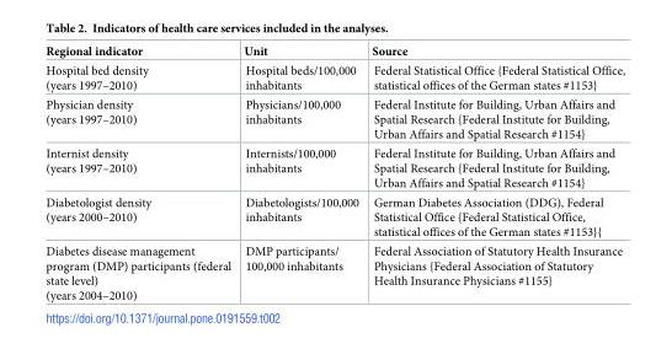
<table><thead><tr><td>Regional indicator</td><td>Unit</td><td>Source</td></tr></thead><tbody><tr><td>Hospital bed density (years 1997–2010)</td><td>Hospital beds/100,000 inhabitants</td><td>Federal Statistical Office {Federal Statistical Office, statistical offices of the German states #1153}</td></tr><tr><td>Physician density (years 1997–2010)</td><td>Physicians/100,000 inhabitants</td><td>Federal Institute for Building, Urban Affairs and Spatial Research {Federal Institute for Building, Urban Affairs and Spatial Research #1154}</td></tr><tr><td>Internist density (years 1997–2010)</td><td>Internists/100,000 inhabitants</td><td>Federal Institute for Building, Urban Affairs and Spatial Research {Federal Institute for Building, Urban Affairs and Spatial Research #1154}</td></tr><tr><td>Diabetologist density (years 2000–2010)</td><td>Diabetologists/100,000 inhabitants</td><td>German Diabetes Association (DDG), Federal Statistical Office {Federal Statistical Office, statistical offices of the German states #1153}{</td></tr><tr><td>Diabetes disease management program (DMP) participants (federal state level) (years 2004–2010)</td><td>DMP participants/ 100,000 inhabitants</td><td>Federal Association of Statutory Health Insurance Physicians {Federal Association of Statutory Health Insurance Physicians #1155}</td></tr></tbody></table>